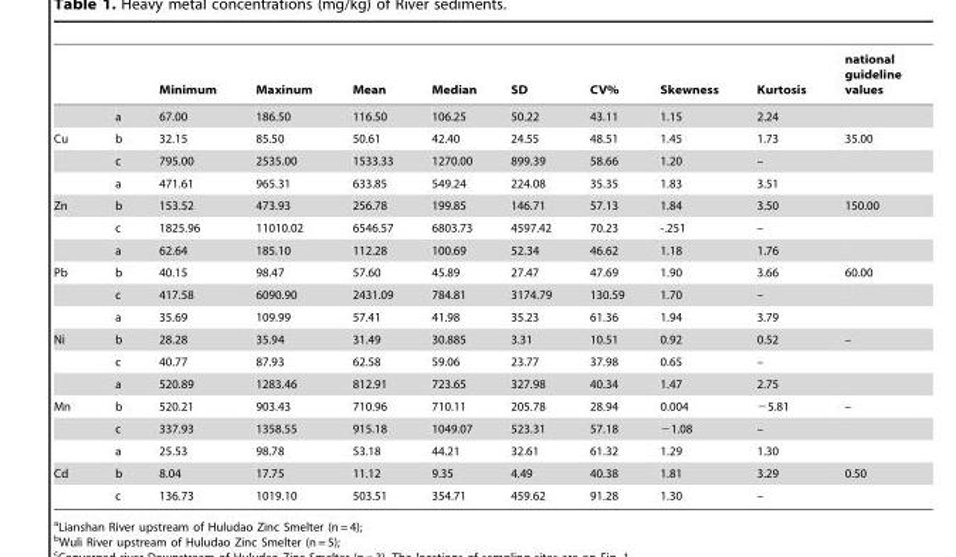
<table><thead><tr><td></td><td></td><td>Minimum</td><td>Maxinum</td><td>Mean</td><td>Median</td><td>SD</td><td>CV%</td><td>Skewness</td><td>Kurtosis</td><td>national guideline values</td></tr></thead><tbody><tr><td></td><td>a</td><td>67.00</td><td>186.50</td><td>116.50</td><td>106.25</td><td>50.22</td><td>43.11</td><td>1.15</td><td>2.24</td><td></td></tr><tr><td rowspan="3">Cu</td><td>b</td><td>32.15</td><td>85.50</td><td>50.61</td><td>42.40</td><td>24.55</td><td>48.51</td><td>1.45</td><td>1.73</td><td>35.00</td></tr><tr><td>c</td><td>795.00</td><td>2535.00</td><td>1533.33</td><td>1270.00</td><td>899.39</td><td>58.66</td><td>1.20</td><td>–</td><td></td></tr><tr><td>a</td><td>471.61</td><td>965.31</td><td>633.85</td><td>549.24</td><td>224.08</td><td>35.35</td><td>1.83</td><td>3.51</td><td></td></tr><tr><td rowspan="3">Zn</td><td>b</td><td>153.52</td><td>473.93</td><td>256.78</td><td>199.85</td><td>146.71</td><td>57.13</td><td>1.84</td><td>3.50</td><td>150.00</td></tr><tr><td>c</td><td>1825.96</td><td>11010.02</td><td>6546.57</td><td>6803.73</td><td>4597.42</td><td>70.23</td><td>-.251</td><td>–</td><td></td></tr><tr><td>a</td><td>62.64</td><td>185.10</td><td>112.28</td><td>100.69</td><td>52.34</td><td>46.62</td><td>1.18</td><td>1.76</td><td></td></tr><tr><td rowspan="3">Pb</td><td>b</td><td>40.15</td><td>98.47</td><td>57.60</td><td>45.89</td><td>27.47</td><td>47.69</td><td>1.90</td><td>3.66</td><td>60.00</td></tr><tr><td>c</td><td>417.58</td><td>6090.90</td><td>2431.09</td><td>784.81</td><td>3174.79</td><td>130.59</td><td>1.70</td><td>–</td><td></td></tr><tr><td>a</td><td>35.69</td><td>109.99</td><td>57.41</td><td>41.98</td><td>35.23</td><td>61.36</td><td>1.94</td><td>3.79</td><td></td></tr><tr><td rowspan="3">Ni</td><td>b</td><td>28.28</td><td>35.94</td><td>31.49</td><td>30.885</td><td>3.31</td><td>10.51</td><td>0.92</td><td>0.52</td><td>–</td></tr><tr><td>c</td><td>40.77</td><td>87.93</td><td>62.58</td><td>59.06</td><td>23.77</td><td>37.98</td><td>0.65</td><td>–</td><td></td></tr><tr><td>a</td><td>520.89</td><td>1283.46</td><td>812.91</td><td>723.65</td><td>327.98</td><td>40.34</td><td>1.47</td><td>2.75</td><td></td></tr><tr><td rowspan="3">Mn</td><td>b</td><td>520.21</td><td>903.43</td><td>710.96</td><td>710.11</td><td>205.78</td><td>28.94</td><td>0.004</td><td>−5.81</td><td>–</td></tr><tr><td>c</td><td>337.93</td><td>1358.55</td><td>915.18</td><td>1049.07</td><td>523.31</td><td>57.18</td><td>−1.08</td><td>–</td><td></td></tr><tr><td>a</td><td>25.53</td><td>98.78</td><td>53.18</td><td>44.21</td><td>32.61</td><td>61.32</td><td>1.29</td><td>1.30</td><td></td></tr><tr><td rowspan="2">Cd</td><td>b</td><td>8.04</td><td>17.75</td><td>11.12</td><td>9.35</td><td>4.49</td><td>40.38</td><td>1.81</td><td>3.29</td><td>0.50</td></tr><tr><td>c</td><td>136.73</td><td>1019.10</td><td>503.51</td><td>354.71</td><td>459.62</td><td>91.28</td><td>1.30</td><td>–</td><td></td></tr></tbody></table>